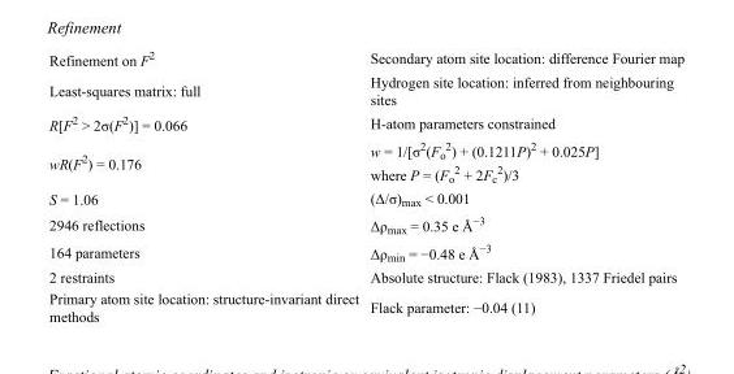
<table><tbody><tr><td>Refinement on F<sup>2</sup></td><td>Secondary atom site location: difference Fourier map</td></tr><tr><td>Least-squares matrix: full</td><td>Hydrogen site location: inferred from neighbouring sites</td></tr><tr><td>R[F<sup>2</sup> &gt; 2σ(F<sup>2</sup>)] = 0.066</td><td>H-atom parameters constrained</td></tr><tr><td>wR(F<sup>2</sup>) = 0.176</td><td>w = 1/[σ<sup>2</sup>(F<sub>o</sub> <sup>2</sup>) + (0.1211P)<sup>2</sup> + 0.025P] where P = (F<sub>o</sub> <sup>2</sup> + 2F<sub>c</sub> <sup>2</sup>)/3</td></tr><tr><td>S = 1.06</td><td>(Δ/σ)<sub>max</sub> &lt; 0.001</td></tr><tr><td>2946 reflections</td><td>Δρ<sub>max</sub> = 0.35 e Å<sup>−3</sup></td></tr><tr><td>164 parameters</td><td>Δρ<sub>min</sub> = −0.48 e Å<sup>−3</sup></td></tr><tr><td>2 restraints</td><td>Absolute structure: Flack (1983), 1337 Friedel pairs</td></tr><tr><td>Primary atom site location: structure-invariant direct methods</td><td>Flack parameter: −0.04 (11)</td></tr></tbody></table>